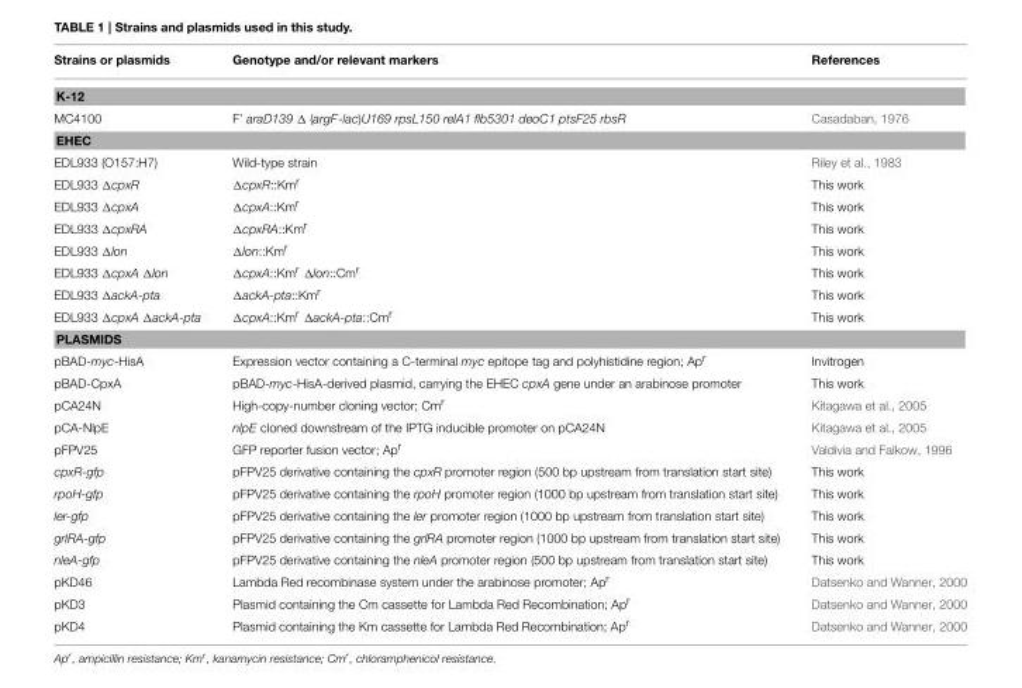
<table><thead><tr><td>Strains or plasmids</td><td>Genotype and/or relevant markers</td><td>References</td></tr></thead><tbody><tr><td colspan="3">K-12</td></tr><tr><td>MC4100</td><td>F’ araD139 Δ (argF-lac)U169 rpsL150 relA1 flb5301 deoC1 ptsF25 rbsR</td><td>Casadaban, 1976</td></tr><tr><td colspan="3">EHEC</td></tr><tr><td>EDL933 (O157:H7)</td><td>Wild-type strain</td><td>Riley et al., 1983</td></tr><tr><td>EDL933 ΔcpxR</td><td>ΔcpxR::Kmr</td><td>This work</td></tr><tr><td>EDL933 ΔcpxA</td><td>ΔcpxA::Kmr</td><td>This work</td></tr><tr><td>EDL933 ΔcpxRA</td><td>ΔcpxRA::Kmr</td><td>This work</td></tr><tr><td>EDL933 Δlon</td><td>Δlon::Kmr</td><td>This work</td></tr><tr><td>EDL933 ΔcpxA Δlon</td><td>ΔcpxA::Kmr Δlon::Cmr</td><td>This work</td></tr><tr><td>EDL933 ΔackA-pta</td><td>ΔackA-pta::Kmr</td><td>This work</td></tr><tr><td>EDL933 ΔcpxA ΔackA-pta</td><td>ΔcpxA::Kmr ΔackA-pta::Cmr</td><td>This work</td></tr><tr><td colspan="3">PLASMIDS</td></tr><tr><td>pBAD-myc-HisA</td><td>Expression vector containing a C-terminal myc epitope tag and polyhistidine region; Apr</td><td>Invitrogen</td></tr><tr><td>pBAD-CpxA</td><td>pBAD-myc-HisA-derived plasmid, carrying the EHEC cpxA gene under an arabinose promoter</td><td>This work</td></tr><tr><td>pCA24N</td><td>High-copy-number cloning vector; Cmr</td><td>Kitagawa et al., 2005</td></tr><tr><td>pCA-NlpE</td><td>nlpE cloned downstream of the IPTG inducible promoter on pCA24N</td><td>Kitagawa et al., 2005</td></tr><tr><td>pFPV25</td><td>GFP reporter fusion vector; Apr</td><td>Valdivia and Falkow, 1996</td></tr><tr><td>cpxR-gfp</td><td>pFPV25 derivative containing the cpxR promoter region (500 bp upstream from translation start site)</td><td>This work</td></tr><tr><td>rpoH-gfp</td><td>pFPV25 derivative containing the rpoH promoter region (1000 bp upstream from translation start site)</td><td>This work</td></tr><tr><td>ler-gfp</td><td>pFPV25 derivative containing the ler promoter region (1000 bp upstream from translation start site)</td><td>This work</td></tr><tr><td>grlRA-gfp</td><td>pFPV25 derivative containing the grlRA promoter region (1000 bp upstream from translation start site)</td><td>This work</td></tr><tr><td>nleA-gfp</td><td>pFPV25 derivative containing the nleA promoter region (500 bp upstream from translation start site)</td><td>This work</td></tr><tr><td>pKD46</td><td>Lambda Red recombinase system under the arabinose promoter; Apr</td><td>Datsenko and Wanner, 2000</td></tr><tr><td>pKD3</td><td>Plasmid containing the Cm cassette for Lambda Red Recombination; Apr</td><td>Datsenko and Wanner, 2000</td></tr><tr><td>pKD4</td><td>Plasmid containing the Km cassette for Lambda Red Recombination; Apr</td><td>Datsenko and Wanner, 2000</td></tr></tbody></table>